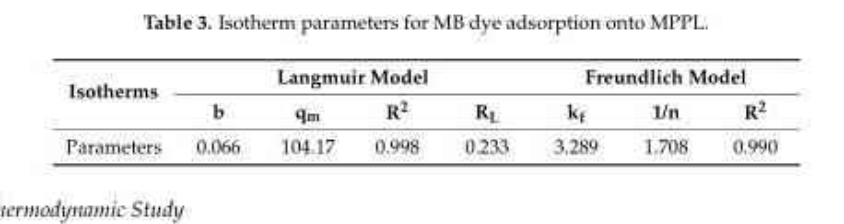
<table><thead><tr><td rowspan="2">Isotherms</td><td colspan="4">Langmuir Model</td><td colspan="3">Freundlich Model</td></tr><tr><td>b</td><td>q<sub>m</sub></td><td>R<sup>2</sup></td><td>R<sub>L</sub></td><td>k<sub>f</sub></td><td>1/n</td><td>R<sup>2</sup></td></tr></thead><tbody><tr><td>Parameters</td><td>0.066</td><td>104.17</td><td>0.998</td><td>0.233</td><td>3.289</td><td>1.708</td><td>0.990</td></tr></tbody></table>